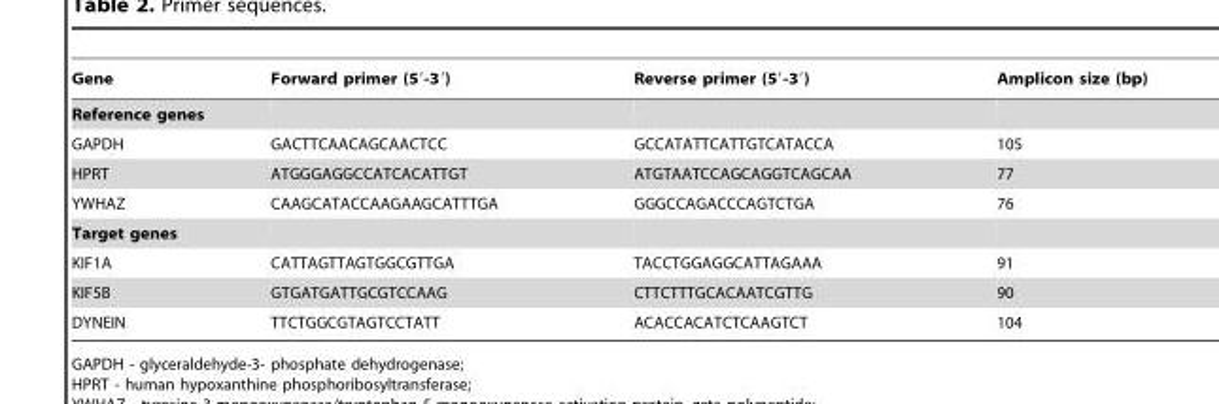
<table><thead><tr><td>Gene</td><td>Forward primer (5′-3′)</td><td>Reverse primer (5′-3′)</td><td>Amplicon size (bp)</td></tr></thead><tbody><tr><td colspan="4">Reference genes</td></tr><tr><td>GAPDH</td><td>GACTTCAACAGCAACTCC</td><td>GCCATATTCATTGTCATACCA</td><td>105</td></tr><tr><td>HPRT</td><td>ATGGGAGGCCATCACATTGT</td><td>ATGTAATCCAGCAGGTCAGCAA</td><td>77</td></tr><tr><td>YWHAZ</td><td>CAAGCATACCAAGAAGCATTTGA</td><td>GGGCCAGACCCAGTCTGA</td><td>76</td></tr><tr><td colspan="4">Target genes</td></tr><tr><td>KIF1A</td><td>CATTAGTTAGTGGCGTTGA</td><td>TACCTGGAGGCATTAGAAA</td><td>91</td></tr><tr><td>KIF5B</td><td>GTGATGATTGCGTCCAAG</td><td>CTTCTTTGCACAATCGTTG</td><td>90</td></tr><tr><td>DYNEIN</td><td>TTCTGGCGTAGTCCTATT</td><td>ACACCACATCTCAAGTCT</td><td>104</td></tr></tbody></table>